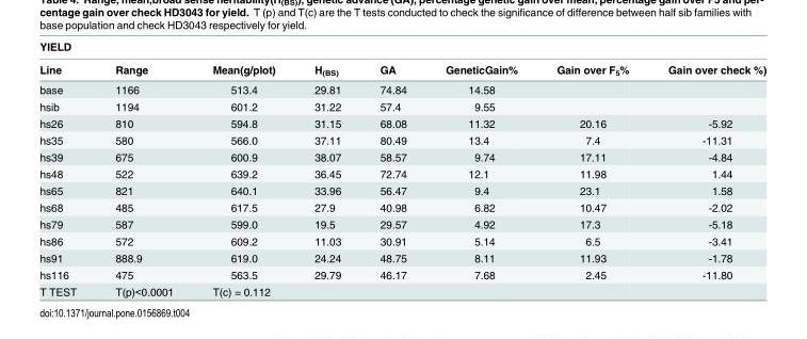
<table><thead><tr><td colspan="8">YIELD</td></tr><tr><td>Line</td><td>Range</td><td>Mean(g/plot)</td><td>H<sub>(BS)</sub></td><td>GA</td><td>GeneticGain%</td><td>Gain over F<sub>5</sub>%</td><td>Gain over check %)</td></tr></thead><tbody><tr><td>base</td><td>1166</td><td>513.4</td><td>29.81</td><td>74.84</td><td>14.58</td><td></td><td></td></tr><tr><td>hsib</td><td>1194</td><td>601.2</td><td>31.22</td><td>57.4</td><td>9.55</td><td></td><td></td></tr><tr><td>hs26</td><td>810</td><td>594.8</td><td>31.15</td><td>68.08</td><td>11.32</td><td>20.16</td><td>-5.92</td></tr><tr><td>hs35</td><td>580</td><td>566.0</td><td>37.11</td><td>80.49</td><td>13.4</td><td>7.4</td><td>-11.31</td></tr><tr><td>hs39</td><td>675</td><td>600.9</td><td>38.07</td><td>58.57</td><td>9.74</td><td>17.11</td><td>-4.84</td></tr><tr><td>hs48</td><td>522</td><td>639.2</td><td>36.45</td><td>72.74</td><td>12.1</td><td>11.98</td><td>1.44</td></tr><tr><td>hs65</td><td>821</td><td>640.1</td><td>33.96</td><td>56.47</td><td>9.4</td><td>23.1</td><td>1.58</td></tr><tr><td>hs68</td><td>485</td><td>617.5</td><td>27.9</td><td>40.98</td><td>6.82</td><td>10.47</td><td>-2.02</td></tr><tr><td>hs79</td><td>587</td><td>599.0</td><td>19.5</td><td>29.57</td><td>4.92</td><td>17.3</td><td>-5.18</td></tr><tr><td>hs86</td><td>572</td><td>609.2</td><td>11.03</td><td>30.91</td><td>5.14</td><td>6.5</td><td>-3.41</td></tr><tr><td>hs91</td><td>888.9</td><td>619.0</td><td>24.24</td><td>48.75</td><td>8.11</td><td>11.93</td><td>-1.78</td></tr><tr><td>hs116</td><td>475</td><td>563.5</td><td>29.79</td><td>46.17</td><td>7.68</td><td>2.45</td><td>-11.80</td></tr><tr><td>T TEST</td><td>T(p)&lt;0.0001</td><td>T(c) = 0.112</td><td></td><td></td><td></td><td></td><td></td></tr></tbody></table>